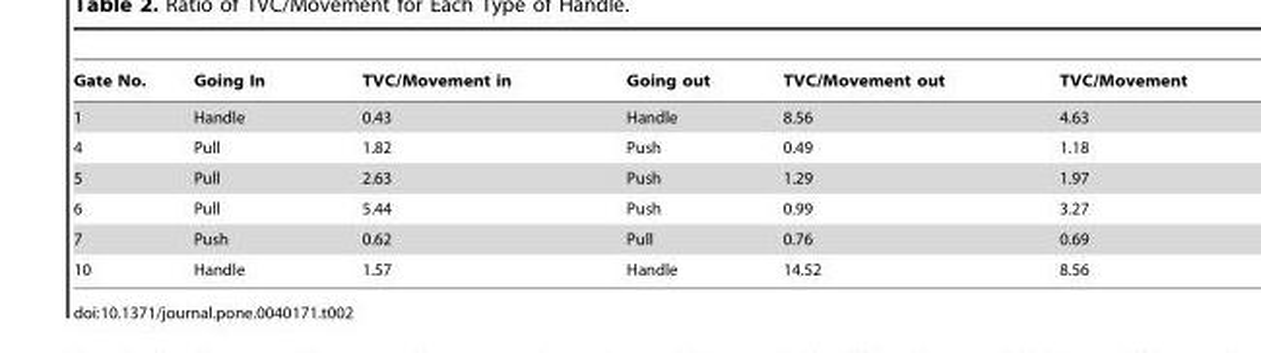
<table><thead><tr><td>Gate No.</td><td>Going In</td><td>TVC/Movement in</td><td>Going out</td><td>TVC/Movement out</td><td>TVC/Movement</td></tr></thead><tbody><tr><td>1</td><td>Handle</td><td>0.43</td><td>Handle</td><td>8.56</td><td>4.63</td></tr><tr><td>4</td><td>Pull</td><td>1.82</td><td>Push</td><td>0.49</td><td>1.18</td></tr><tr><td>5</td><td>Pull</td><td>2.63</td><td>Push</td><td>1.29</td><td>1.97</td></tr><tr><td>6</td><td>Pull</td><td>5.44</td><td>Push</td><td>0.99</td><td>3.27</td></tr><tr><td>7</td><td>Push</td><td>0.62</td><td>Pull</td><td>0.76</td><td>0.69</td></tr><tr><td>10</td><td>Handle</td><td>1.57</td><td>Handle</td><td>14.52</td><td>8.56</td></tr></tbody></table>